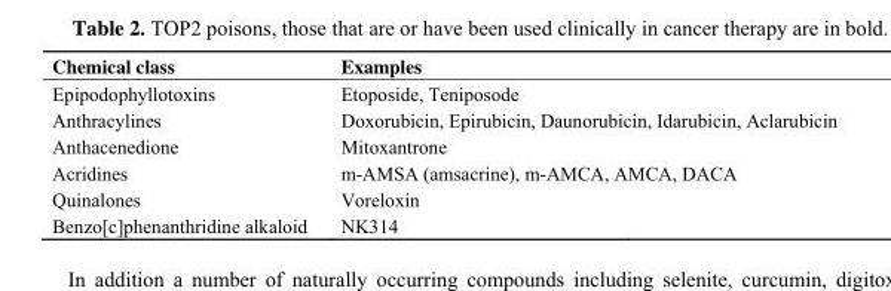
<table><thead><tr><td>Chemical class</td><td>Examples</td></tr></thead><tbody><tr><td>Epipodophyllotoxins</td><td>Etoposide, Teniposode</td></tr><tr><td>Anthracylines</td><td>Doxorubicin, Epirubicin, Daunorubicin, Idarubicin, Aclarubicin</td></tr><tr><td>Anthacenedione</td><td>Mitoxantrone</td></tr><tr><td>Acridines</td><td>m-AMSA (amsacrine), m-AMCA, AMCA, DACA</td></tr><tr><td>Quinalones</td><td>Voreloxin</td></tr><tr><td>Benzo[c]phenanthridine alkaloid</td><td>NK314</td></tr></tbody></table>